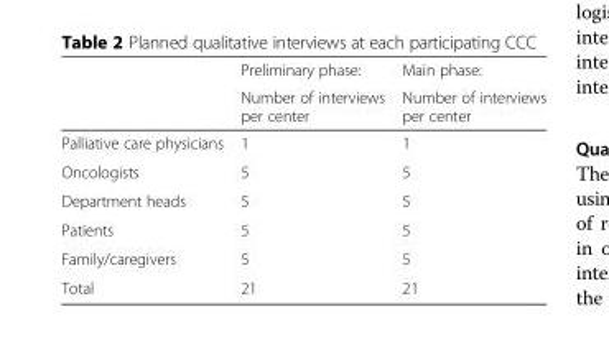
<table><thead><tr><td rowspan="2"></td><td rowspan="2">Preliminary phase: Number of interviews per center</td><td rowspan="2">Main phase: Number of interviews per center</td></tr><tr></tr></thead><tbody><tr><td>Palliative care physicians</td><td>1</td><td>1</td></tr><tr><td>Oncologists</td><td>5</td><td>5</td></tr><tr><td>Department heads</td><td>5</td><td>5</td></tr><tr><td>Patients</td><td>5</td><td>5</td></tr><tr><td>Family/caregivers</td><td>5</td><td>5</td></tr><tr><td>Total</td><td>21</td><td>21</td></tr></tbody></table>